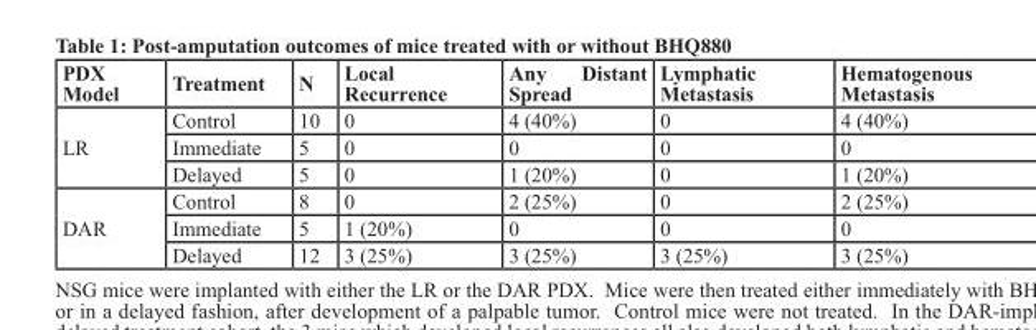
<table><thead><tr><td>PDX Model</td><td>Treatment</td><td>N</td><td>Local Recurrence</td><td>Any Distant Spread</td><td>Lymphatic Metastasis</td><td>Hematogenous Metastasis</td></tr></thead><tbody><tr><td rowspan="3">LR</td><td>Control</td><td>10</td><td>0</td><td>4 (40%)</td><td>0</td><td>4 (40%)</td></tr><tr><td>Immediate</td><td>5</td><td>0</td><td>0</td><td>0</td><td>0</td></tr><tr><td>Delayed</td><td>5</td><td>0</td><td>1 (20%)</td><td>0</td><td>1 (20%)</td></tr><tr><td rowspan="3">DAR</td><td>Control</td><td>8</td><td>0</td><td>2 (25%)</td><td>0</td><td>2 (25%)</td></tr><tr><td>Immediate</td><td>5</td><td>1 (20%)</td><td>0</td><td>0</td><td>0</td></tr><tr><td>Delayed</td><td>12</td><td>3 (25%)</td><td>3 (25%)</td><td>3 (25%)</td><td>3 (25%)</td></tr></tbody></table>